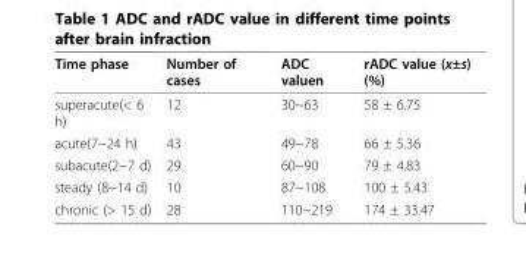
<table><thead><tr><td>Time phase</td><td>Number of cases</td><td>ADC valuen</td><td>rADC value (x±s) (%)</td></tr></thead><tbody><tr><td>superacute(&lt; 6 h)</td><td>12</td><td>30~63</td><td>58 ± 6.75</td></tr><tr><td>acute(7~24 h)</td><td>43</td><td>49~78</td><td>66 ± 5.36</td></tr><tr><td>subacute(2~7 d)</td><td>29</td><td>60~90</td><td>79 ± 4.83</td></tr><tr><td>steady (8~14 d)</td><td>10</td><td>87~108</td><td>100 ± 5.43</td></tr><tr><td>chronic (&gt; 15 d)</td><td>28</td><td>110~219</td><td>174 ± 33.47</td></tr></tbody></table>